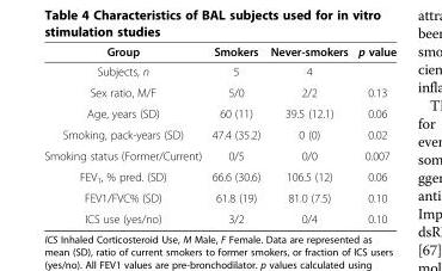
<table><thead><tr><td>Group</td><td>Smokers</td><td>Never-smokers</td><td>p value</td></tr></thead><tbody><tr><td>Subjects, n</td><td>5</td><td>4</td><td></td></tr><tr><td>Sex ratio, M/F</td><td>5/0</td><td>2/2</td><td>0.13</td></tr><tr><td>Age, years (SD)</td><td>60 (11)</td><td>39.5 (12.1)</td><td>0.06</td></tr><tr><td>Smoking, pack-years (SD)</td><td>47.4 (35.2)</td><td>0 (0)</td><td>0.02</td></tr><tr><td>Smoking status (Former/Current)</td><td>0/5</td><td>0/0</td><td>0.007</td></tr><tr><td>FEV<sub>1</sub>, % pred. (SD)</td><td>66.6 (30.6)</td><td>106.5 (12)</td><td>0.06</td></tr><tr><td>FEV1/FVC% (SD)</td><td>61.8 (19)</td><td>81.0 (7.5)</td><td>0.10</td></tr><tr><td>ICS use (yes/no)</td><td>3/2</td><td>0/4</td><td>0.10</td></tr></tbody></table>